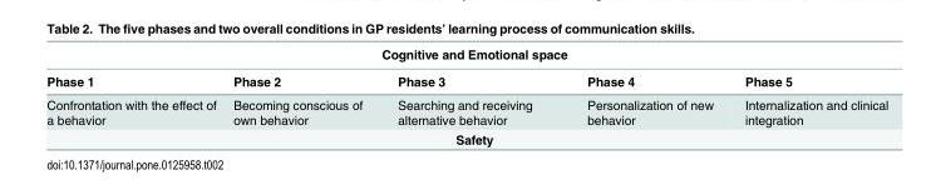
<table><thead><tr><td colspan="5">Cognitive and Emotional space</td></tr><tr><td>Phase 1</td><td>Phase 2</td><td>Phase 3</td><td>Phase 4</td><td>Phase 5</td></tr></thead><tbody><tr><td>Confrontation with the effect of a behavior</td><td>Becoming conscious of own behavior</td><td>Searching and receiving alternative behavior</td><td>Personalization of new behavior</td><td>Internalization and clinical integration</td></tr><tr><td colspan="5">Safety</td></tr></tbody></table>